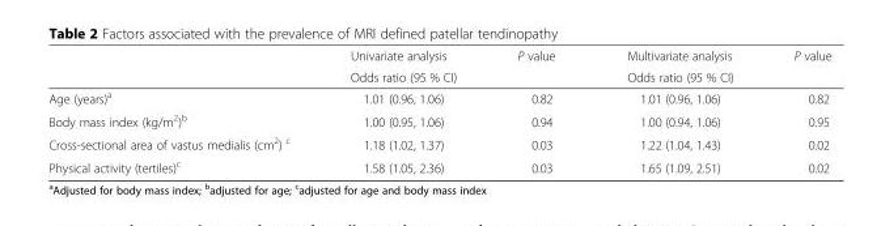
<table><thead><tr><td rowspan="2"></td><td rowspan="2">Univariate analysis Odds ratio (95 % CI)</td><td rowspan="2">P value</td><td rowspan="2">Multivariate analysis Odds ratio (95 % CI)</td><td rowspan="2">P value</td></tr><tr></tr></thead><tbody><tr><td>Age (years)<sup>a</sup></td><td>1.01 (0.96, 1.06)</td><td>0.82</td><td>1.01 (0.96, 1.06)</td><td>0.82</td></tr><tr><td>Body mass index (kg/m<sup>2</sup>)<sup>b</sup></td><td>1.00 (0.95, 1.06)</td><td>0.94</td><td>1.00 (0.94, 1.06)</td><td>0.95</td></tr><tr><td>Cross-sectional area of vastus medialis (cm<sup>2</sup>) <sup>c</sup></td><td>1.18 (1.02, 1.37)</td><td>0.03</td><td>1.22 (1.04, 1.43)</td><td>0.02</td></tr><tr><td>Physical activity (tertiles)<sup>c</sup></td><td>1.58 (1.05, 2.36)</td><td>0.03</td><td>1.65 (1.09, 2.51)</td><td>0.02</td></tr></tbody></table>